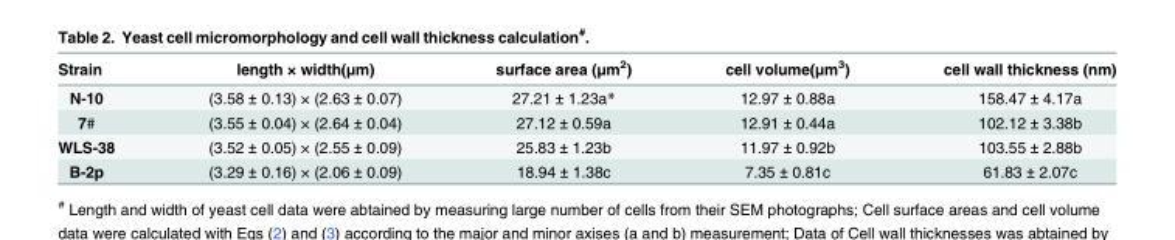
<table><thead><tr><td>Strain</td><td>length × width(μm)</td><td>surface area (μm<sup>2</sup>)</td><td>cell volume(μm<sup>3</sup>)</td><td>cell wall thickness (nm)</td></tr></thead><tbody><tr><td>N-10</td><td>(3.58 ± 0.13) × (2.63 ± 0.07)</td><td>27.21 ± 1.23a*</td><td>12.97 ± 0.88a</td><td>158.47 ± 4.17a</td></tr><tr><td>7#</td><td>(3.55 ± 0.04) × (2.64 ± 0.04)</td><td>27.12 ± 0.59a</td><td>12.91 ± 0.44a</td><td>102.12 ± 3.38b</td></tr><tr><td>WLS-38</td><td>(3.52 ± 0.05) × (2.55 ± 0.09)</td><td>25.83 ± 1.23b</td><td>11.97 ± 0.92b</td><td>103.55 ± 2.88b</td></tr><tr><td>B-2p</td><td>(3.29 ± 0.16) × (2.06 ± 0.09)</td><td>18.94 ± 1.38c</td><td>7.35 ± 0.81c</td><td>61.83 ± 2.07c</td></tr></tbody></table>